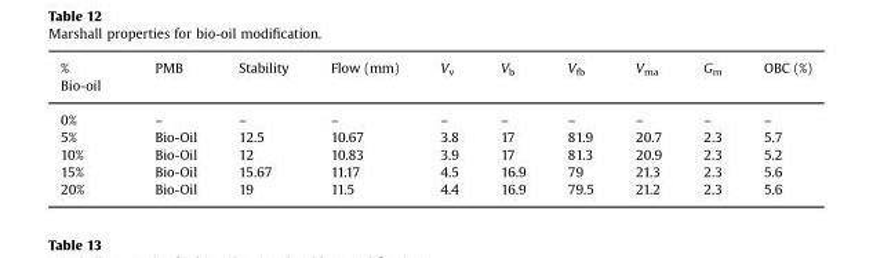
<table><thead><tr><td rowspan="2">% Bio-oil</td><td rowspan="2">PMB</td><td rowspan="2">Stability</td><td rowspan="2">Flow (mm)</td><td rowspan="2">V<sub>v</sub></td><td rowspan="2">V<sub>b</sub></td><td rowspan="2">V<sub>fb</sub></td><td rowspan="2">V<sub>ma</sub></td><td rowspan="2">G<sub>m</sub></td><td rowspan="2">OBC (%)</td></tr><tr></tr></thead><tbody><tr><td>0%</td><td>–</td><td>–</td><td>–</td><td>–</td><td>–</td><td>–</td><td>–</td><td>–</td><td>–</td></tr><tr><td>5%</td><td>Bio-Oil</td><td>12.5</td><td>10.67</td><td>3.8</td><td>17</td><td>81.9</td><td>20.7</td><td>2.3</td><td>5.7</td></tr><tr><td>10%</td><td>Bio-Oil</td><td>12</td><td>10.83</td><td>3.9</td><td>17</td><td>81.3</td><td>20.9</td><td>2.3</td><td>5.2</td></tr><tr><td>15%</td><td>Bio-Oil</td><td>15.67</td><td>11.17</td><td>4.5</td><td>16.9</td><td>79</td><td>21.3</td><td>2.3</td><td>5.6</td></tr><tr><td>20%</td><td>Bio-Oil</td><td>19</td><td>11.5</td><td>4.4</td><td>16.9</td><td>79.5</td><td>21.2</td><td>2.3</td><td>5.6</td></tr></tbody></table>